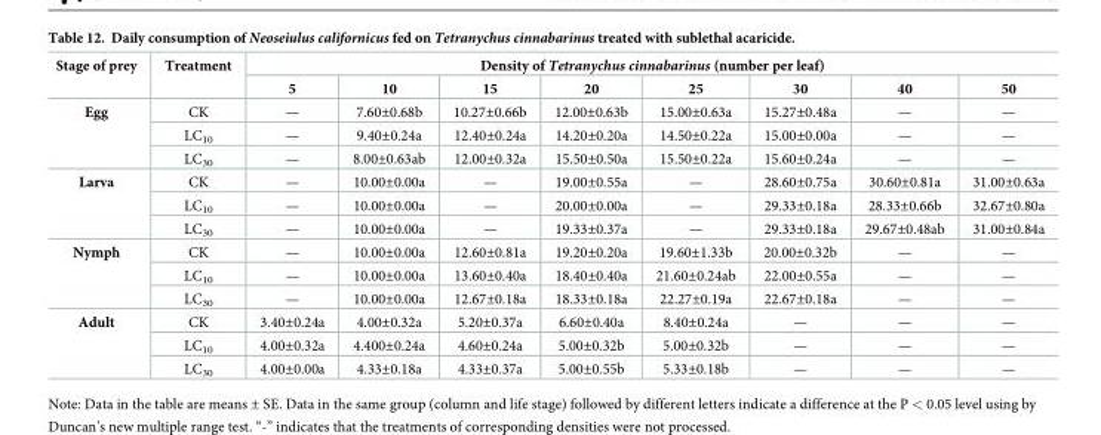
<table><thead><tr><td rowspan="2">Stage of prey</td><td rowspan="2">Treatment</td><td colspan="8">Density of Tetranychus cinnabarinus (number per leaf)</td></tr><tr><td>5</td><td>10</td><td>15</td><td>20</td><td>25</td><td>30</td><td>40</td><td>50</td></tr></thead><tbody><tr><td rowspan="3">Egg</td><td>CK</td><td>—</td><td>7.60±0.68b</td><td>10.27±0.66b</td><td>12.00±0.63b</td><td>15.00±0.63a</td><td>15.27±0.48a</td><td>—</td><td>—</td></tr><tr><td>LC<sub>10</sub></td><td>—</td><td>9.40±0.24a</td><td>12.40±0.24a</td><td>14.20±0.20a</td><td>14.50±0.22a</td><td>15.00±0.00a</td><td>—</td><td>—</td></tr><tr><td>LC<sub>30</sub></td><td>—</td><td>8.00±0.63ab</td><td>12.00±0.32a</td><td>15.50±0.50a</td><td>15.50±0.22a</td><td>15.60±0.24a</td><td>—</td><td>—</td></tr><tr><td rowspan="3">Larva</td><td>CK</td><td>—</td><td>10.00±0.00a</td><td>—</td><td>19.00±0.55a</td><td>—</td><td>28.60±0.75a</td><td>30.60±0.81a</td><td>31.00±0.63a</td></tr><tr><td>LC<sub>10</sub></td><td>—</td><td>10.00±0.00a</td><td>—</td><td>20.00±0.00a</td><td>—</td><td>29.33±0.18a</td><td>28.33±0.66b</td><td>32.67±0.80a</td></tr><tr><td>LC<sub>30</sub></td><td>—</td><td>10.00±0.00a</td><td>—</td><td>19.33±0.37a</td><td>—</td><td>29.33±0.18a</td><td>29.67±0.48ab</td><td>31.00±0.84a</td></tr><tr><td rowspan="3">Nymph</td><td>CK</td><td>—</td><td>10.00±0.00a</td><td>12.60±0.81a</td><td>19.20±0.20a</td><td>19.60±1.33b</td><td>20.00±0.32b</td><td>—</td><td>—</td></tr><tr><td>LC<sub>10</sub></td><td>—</td><td>10.00±0.00a</td><td>13.60±0.40a</td><td>18.40±0.40a</td><td>21.60±0.24ab</td><td>22.00±0.55a</td><td>—</td><td>—</td></tr><tr><td>LC<sub>30</sub></td><td>—</td><td>10.00±0.00a</td><td>12.67±0.18a</td><td>18.33±0.18a</td><td>22.27±0.19a</td><td>22.67±0.18a</td><td>—</td><td>—</td></tr><tr><td rowspan="3">Adult</td><td>CK</td><td>3.40±0.24a</td><td>4.00±0.32a</td><td>5.20±0.37a</td><td>6.60±0.40a</td><td>8.40±0.24a</td><td>—</td><td>—</td><td>—</td></tr><tr><td>LC<sub>10</sub></td><td>4.00±0.32a</td><td>4.400±0.24a</td><td>4.60±0.24a</td><td>5.00±0.32b</td><td>5.00±0.32b</td><td>—</td><td>—</td><td>—</td></tr><tr><td>LC<sub>30</sub></td><td>4.00±0.00a</td><td>4.33±0.18a</td><td>4.33±0.37a</td><td>5.00±0.55b</td><td>5.33±0.18b</td><td>—</td><td>—</td><td>—</td></tr></tbody></table>